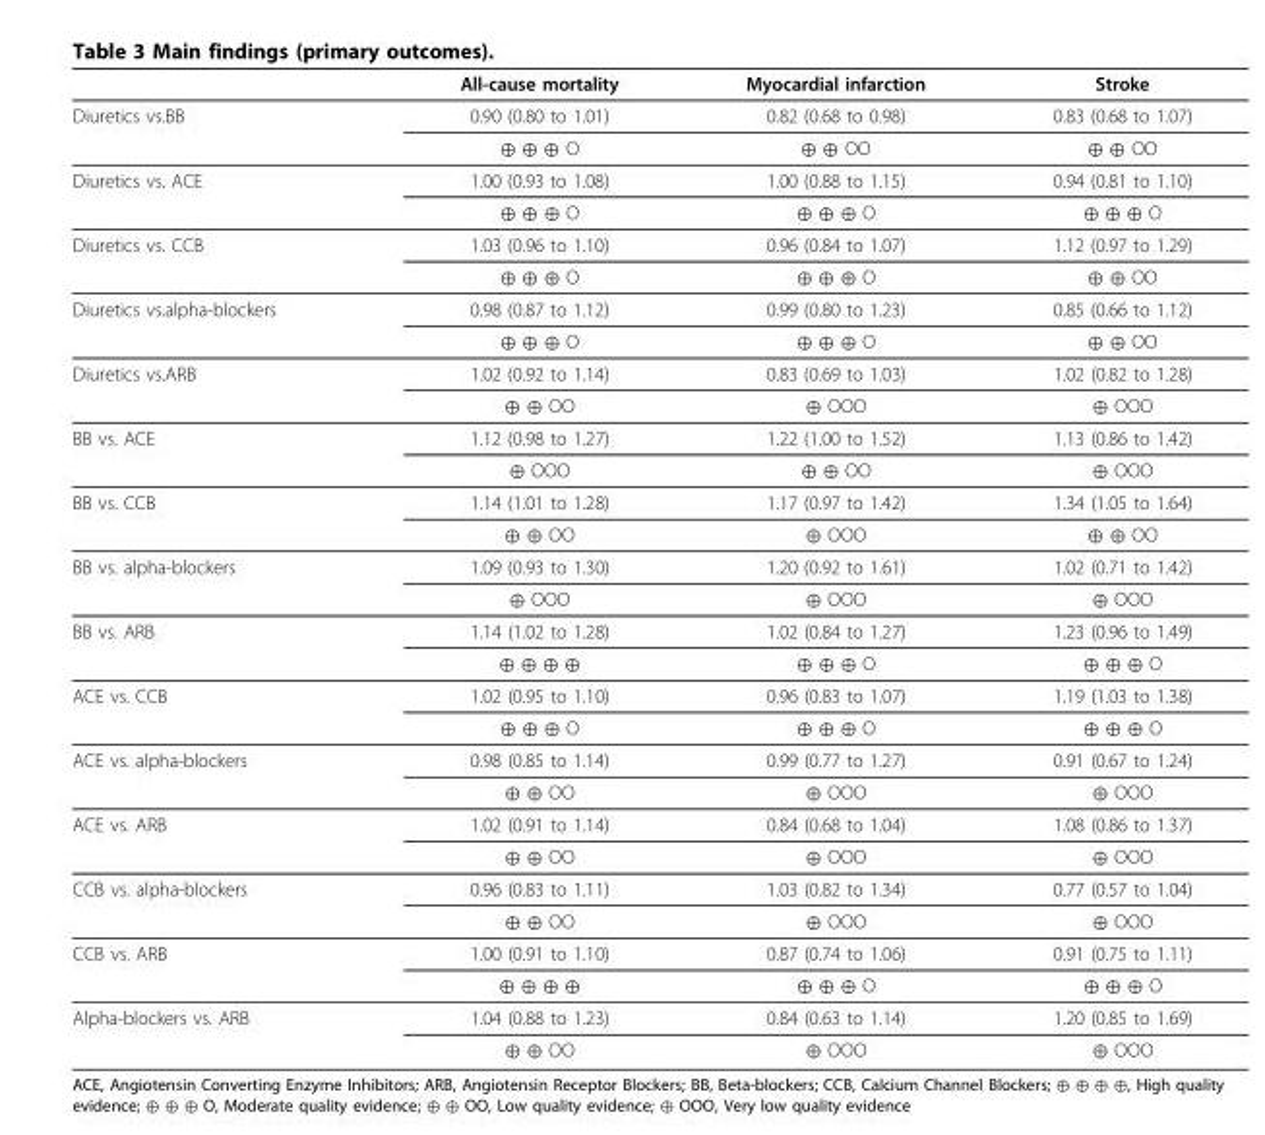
<table><thead><tr><td></td><td>All-cause mortality</td><td>Myocardial infarction</td><td>Stroke</td></tr></thead><tbody><tr><td rowspan="2">Diuretics vs.BB</td><td>0.90 (0.80 to 1.01)</td><td>0.82 (0.68 to 0.98)</td><td>0.83 (0.68 to 1.07)</td></tr><tr><td>⊕ ⊕ ⊕ O</td><td>⊕ ⊕ OO</td><td>⊕ ⊕ OO</td></tr><tr><td rowspan="2">Diuretics vs. ACE</td><td>1.00 (0.93 to 1.08)</td><td>1.00 (0.88 to 1.15)</td><td>0.94 (0.81 to 1.10)</td></tr><tr><td>⊕ ⊕ ⊕ O</td><td>⊕ ⊕ ⊕ O</td><td>⊕ ⊕ ⊕ O</td></tr><tr><td rowspan="2">Diuretics vs. CCB</td><td>1.03 (0.96 to 1.10)</td><td>0.96 (0.84 to 1.07)</td><td>1.12 (0.97 to 1.29)</td></tr><tr><td>⊕ ⊕ ⊕ O</td><td>⊕ ⊕ ⊕ O</td><td>⊕ ⊕ OO</td></tr><tr><td rowspan="2">Diuretics vs.alpha-blockers</td><td>0.98 (0.87 to 1.12)</td><td>0.99 (0.80 to 1.23)</td><td>0.85 (0.66 to 1.12)</td></tr><tr><td>⊕ ⊕ ⊕ O</td><td>⊕ ⊕ ⊕ O</td><td>⊕ ⊕ OO</td></tr><tr><td rowspan="2">Diuretics vs.ARB</td><td>1.02 (0.92 to 1.14)</td><td>0.83 (0.69 to 1.03)</td><td>1.02 (0.82 to 1.28)</td></tr><tr><td>⊕ ⊕ OO</td><td>⊕ OOO</td><td>⊕ OOO</td></tr><tr><td rowspan="2">BB vs. ACE</td><td>1.12 (0.98 to 1.27)</td><td>1.22 (1.00 to 1.52)</td><td>1.13 (0.86 to 1.42)</td></tr><tr><td>⊕ OOO</td><td>⊕ ⊕ OO</td><td>⊕ OOO</td></tr><tr><td rowspan="2">BB vs. CCB</td><td>1.14 (1.01 to 1.28)</td><td>1.17 (0.97 to 1.42)</td><td>1.34 (1.05 to 1.64)</td></tr><tr><td>⊕ ⊕ OO</td><td>⊕ OOO</td><td>⊕ ⊕ OO</td></tr><tr><td rowspan="2">BB vs. alpha-blockers</td><td>1.09 (0.93 to 1.30)</td><td>1.20 (0.92 to 1.61)</td><td>1.02 (0.71 to 1.42)</td></tr><tr><td>⊕ OOO</td><td>⊕ OOO</td><td>⊕ OOO</td></tr><tr><td rowspan="2">BB vs. ARB</td><td>1.14 (1.02 to 1.28)</td><td>1.02 (0.84 to 1.27)</td><td>1.23 (0.96 to 1.49)</td></tr><tr><td>⊕ ⊕ ⊕ ⊕</td><td>⊕ ⊕ ⊕ O</td><td>⊕ ⊕ ⊕ O</td></tr><tr><td rowspan="2">ACE vs. CCB</td><td>1.02 (0.95 to 1.10)</td><td>0.96 (0.83 to 1.07)</td><td>1.19 (1.03 to 1.38)</td></tr><tr><td>⊕ ⊕ ⊕ O</td><td>⊕ ⊕ ⊕ O</td><td>⊕ ⊕ ⊕ O</td></tr><tr><td rowspan="2">ACE vs. alpha-blockers</td><td>0.98 (0.85 to 1.14)</td><td>0.99 (0.77 to 1.27)</td><td>0.91 (0.67 to 1.24)</td></tr><tr><td>⊕ ⊕ OO</td><td>⊕ OOO</td><td>⊕ OOO</td></tr><tr><td rowspan="2">ACE vs. ARB</td><td>1.02 (0.91 to 1.14)</td><td>0.84 (0.68 to 1.04)</td><td>1.08 (0.86 to 1.37)</td></tr><tr><td>⊕ ⊕ OO</td><td>⊕ OOO</td><td>⊕ OOO</td></tr><tr><td rowspan="2">CCB vs. alpha-blockers</td><td>0.96 (0.83 to 1.11)</td><td>1.03 (0.82 to 1.34)</td><td>0.77 (0.57 to 1.04)</td></tr><tr><td>⊕ ⊕ OO</td><td>⊕ OOO</td><td>⊕ OOO</td></tr><tr><td rowspan="2">CCB vs. ARB</td><td>1.00 (0.91 to 1.10)</td><td>0.87 (0.74 to 1.06)</td><td>0.91 (0.75 to 1.11)</td></tr><tr><td>⊕ ⊕ ⊕ ⊕</td><td>⊕ ⊕ ⊕ O</td><td>⊕ ⊕ ⊕ O</td></tr><tr><td rowspan="2">Alpha-blockers vs. ARB</td><td>1.04 (0.88 to 1.23)</td><td>0.84 (0.63 to 1.14)</td><td>1.20 (0.85 to 1.69)</td></tr><tr><td>⊕ ⊕ OO</td><td>⊕ OOO</td><td>⊕ OOO</td></tr></tbody></table>